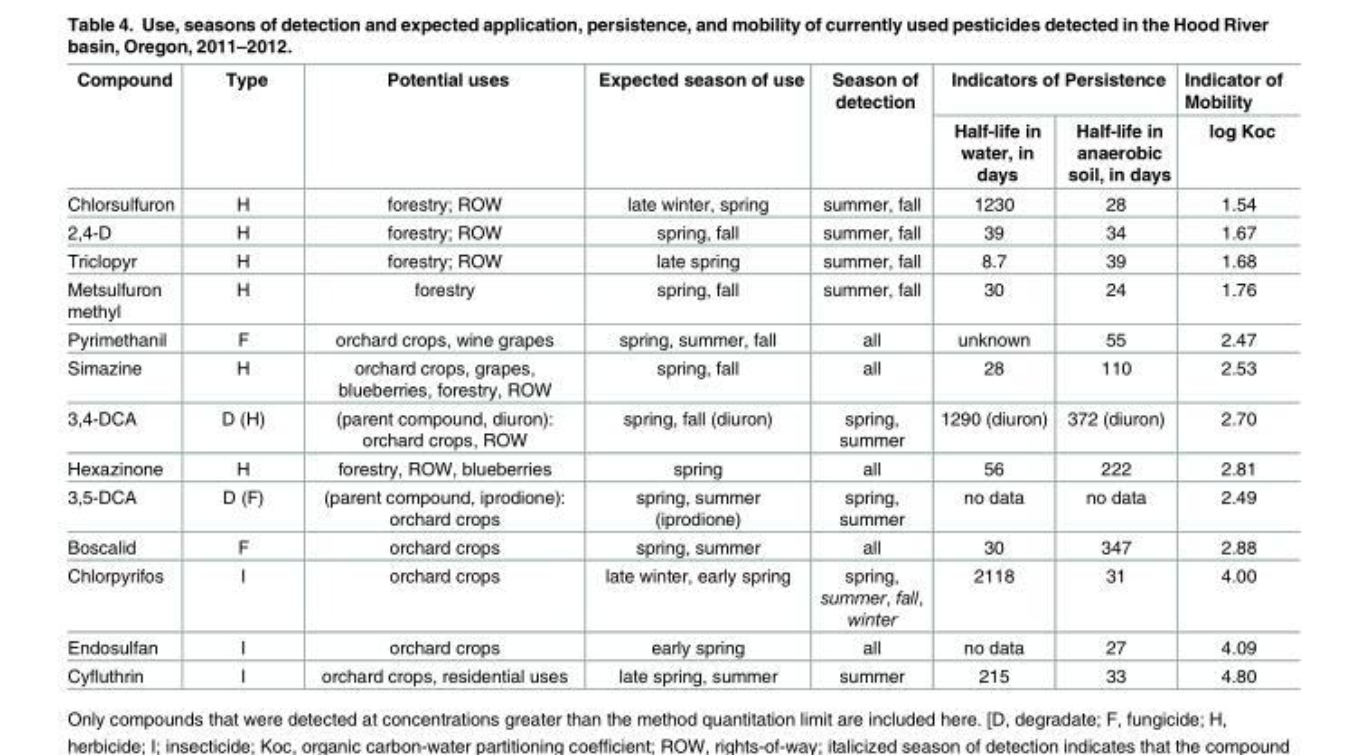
<table><thead><tr><td rowspan="2">Compound</td><td rowspan="2">Type</td><td rowspan="2">Potential uses</td><td rowspan="2">Expected season of use</td><td rowspan="2">Season of detection</td><td colspan="2">Indicators of Persistence</td><td rowspan="2">Indicator of Mobility log Koc</td></tr><tr><td>Half-life in water, in days</td><td>Half-life in anaerobic soil, in days</td></tr></thead><tbody><tr><td>Chlorsulfuron</td><td>H</td><td>forestry; ROW</td><td>late winter, spring</td><td>summer, fall</td><td>1230</td><td>28</td><td>1.54</td></tr><tr><td>2,4-D</td><td>H</td><td>forestry; ROW</td><td>spring, fall</td><td>summer, fall</td><td>39</td><td>34</td><td>1.67</td></tr><tr><td>Triclopyr</td><td>H</td><td>forestry; ROW</td><td>late spring</td><td>summer, fall</td><td>8.7</td><td>39</td><td>1.68</td></tr><tr><td>Metsulfuron methyl</td><td>H</td><td>forestry</td><td>spring, fall</td><td>summer, fall</td><td>30</td><td>24</td><td>1.76</td></tr><tr><td>Pyrimethanil</td><td>F</td><td>orchard crops, wine grapes</td><td>spring, summer, fall</td><td>all</td><td>unknown</td><td>55</td><td>2.47</td></tr><tr><td>Simazine</td><td>H</td><td>orchard crops, grapes, blueberries, forestry, ROW</td><td>spring, fall</td><td>all</td><td>28</td><td>110</td><td>2.53</td></tr><tr><td>3,4-DCA</td><td>D (H)</td><td>(parent compound, diuron): orchard crops, ROW</td><td>spring, fall (diuron)</td><td>spring, summer</td><td>1290 (diuron)</td><td>372 (diuron)</td><td>2.70</td></tr><tr><td>Hexazinone</td><td>H</td><td>forestry, ROW, blueberries</td><td>spring</td><td>all</td><td>56</td><td>222</td><td>2.81</td></tr><tr><td>3,5-DCA</td><td>D (F)</td><td>(parent compound, iprodione): orchard crops</td><td>spring, summer (iprodione)</td><td>spring, summer</td><td>no data</td><td>no data</td><td>2.49</td></tr><tr><td>Boscalid</td><td>F</td><td>orchard crops</td><td>spring, summer</td><td>all</td><td>30</td><td>347</td><td>2.88</td></tr><tr><td>Chlorpyrifos</td><td>I</td><td>orchard crops</td><td>late winter, early spring</td><td>spring, summer, fall, winter</td><td>2118</td><td>31</td><td>4.00</td></tr><tr><td>Endosulfan</td><td>I</td><td>orchard crops</td><td>early spring</td><td>all</td><td>no data</td><td>27</td><td>4.09</td></tr><tr><td>Cyfluthrin</td><td>I</td><td>orchard crops, residential uses</td><td>late spring, summer</td><td>summer</td><td>215</td><td>33</td><td>4.80</td></tr></tbody></table>